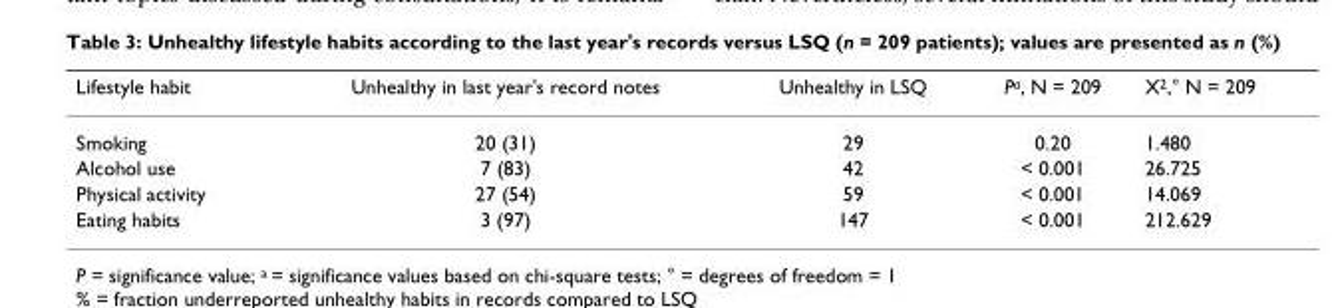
<table><thead><tr><td>Lifestyle habit</td><td>Unhealthy in last year&#x27;s record notes</td><td>Unhealthy in LSQ</td><td>P<sup>a</sup>, N = 209</td><td>X<sup>2</sup>,° N = 209</td></tr></thead><tbody><tr><td>Smoking</td><td>20 (31)</td><td>29</td><td>0.20</td><td>1.480</td></tr><tr><td>Alcohol use</td><td>7 (83)</td><td>42</td><td>&lt; 0.001</td><td>26.725</td></tr><tr><td>Physical activity</td><td>27 (54)</td><td>59</td><td>&lt; 0.001</td><td>14.069</td></tr><tr><td>Eating habits</td><td>3 (97)</td><td>147</td><td>&lt; 0.001</td><td>212.629</td></tr></tbody></table>